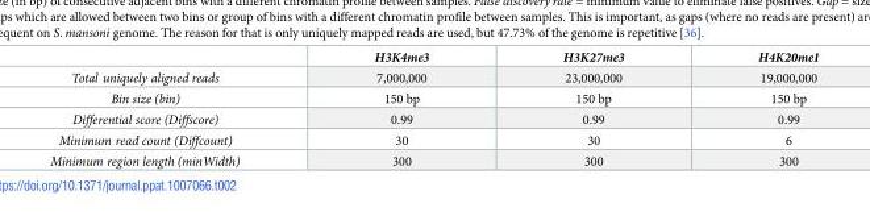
<table><thead><tr><td></td><td>H3K4me3</td><td>H3K27me3</td><td>H4K20me1</td></tr></thead><tbody><tr><td>Total uniquely aligned reads</td><td>7,000,000</td><td>23,000,000</td><td>19,000,000</td></tr><tr><td>Bin size (bin)</td><td>150 bp</td><td>150 bp</td><td>150 bp</td></tr><tr><td>Differential score (Diffscore)</td><td>0.99</td><td>0.99</td><td>0.99</td></tr><tr><td>Minimum read count (Diffcount)</td><td>30</td><td>30</td><td>6</td></tr><tr><td>Minimum region length (minWidth)</td><td>300</td><td>300</td><td>300</td></tr></tbody></table>